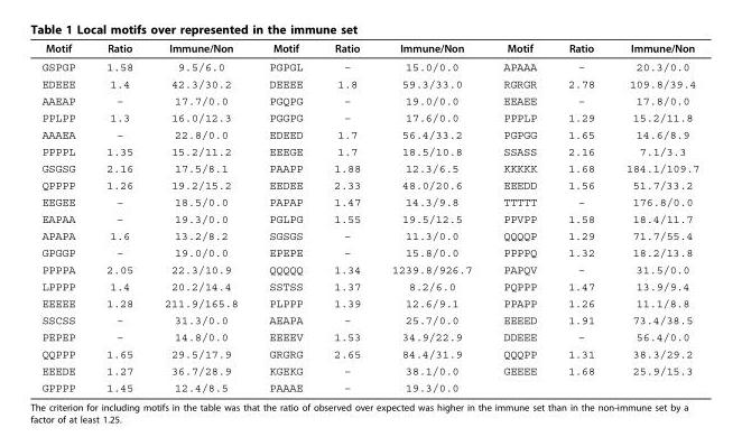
<table><thead><tr><td>Motif</td><td>Ratio</td><td>Immune/Non</td><td>Motif</td><td>Ratio</td><td>Immune/Non</td><td>Motif</td><td>Ratio</td><td>Immune/Non</td></tr></thead><tbody><tr><td>GSPGP</td><td>1.58</td><td>9.5/6.0</td><td>PGPGL</td><td>–</td><td>15.0/0.0</td><td>APAAA</td><td>–</td><td>20.3/0.0</td></tr><tr><td>EDEEE</td><td>1.4</td><td>42.3/30.2</td><td>DEEEE</td><td>1.8</td><td>59.3/33.0</td><td>RGRGR</td><td>2.78</td><td>109.8/39.4</td></tr><tr><td>AAEAP</td><td>–</td><td>17.7/0.0</td><td>PGQPG</td><td>–</td><td>19.0/0.0</td><td>EEAEE</td><td>–</td><td>17.8/0.0</td></tr><tr><td>PPLPP</td><td>1.3</td><td>16.0/12.3</td><td>PGGPG</td><td>–</td><td>17.6/0.0</td><td>PPPLP</td><td>1.29</td><td>15.2/11.8</td></tr><tr><td>AAAEA</td><td>–</td><td>22.8/0.0</td><td>EDEED</td><td>1.7</td><td>56.4/33.2</td><td>PGPGG</td><td>1.65</td><td>14.6/8.9</td></tr><tr><td>PPPPL</td><td>1.35</td><td>15.2/11.2</td><td>EEEGE</td><td>1.7</td><td>18.5/10.8</td><td>SSASS</td><td>2.16</td><td>7.1/3.3</td></tr><tr><td>GSGSG</td><td>2.16</td><td>17.5/8.1</td><td>PAAPP</td><td>1.88</td><td>12.3/6.5</td><td>KKKKK</td><td>1.68</td><td>184.1/109.7</td></tr><tr><td>QPPPP</td><td>1.26</td><td>19.2/15.2</td><td>EEDEE</td><td>2.33</td><td>48.0/20.6</td><td>EEEDD</td><td>1.56</td><td>51.7/33.2</td></tr><tr><td>EEGEE</td><td>–</td><td>18.5/0.0</td><td>PAPAP</td><td>1.47</td><td>14.3/9.8</td><td>TTTTT</td><td>–</td><td>176.8/0.0</td></tr><tr><td>EAPAA</td><td>–</td><td>19.3/0.0</td><td>PGLPG</td><td>1.55</td><td>19.5/12.5</td><td>PPVPP</td><td>1.58</td><td>18.4/11.7</td></tr><tr><td>APAPA</td><td>1.6</td><td>13.2/8.2</td><td>SGSGS</td><td>–</td><td>11.3/0.0</td><td>QQQQP</td><td>1.29</td><td>71.7/55.4</td></tr><tr><td>GPGGP</td><td>–</td><td>19.0/0.0</td><td>EPEPE</td><td>–</td><td>15.8/0.0</td><td>PPPPQ</td><td>1.32</td><td>18.2/13.8</td></tr><tr><td>PPPPA</td><td>2.05</td><td>22.3/10.9</td><td>QQQQQ</td><td>1.34</td><td>1239.8/926.7</td><td>PAPQV</td><td>–</td><td>31.5/0.0</td></tr><tr><td>LPPPP</td><td>1.4</td><td>20.2/14.4</td><td>SSTSS</td><td>1.37</td><td>8.2/6.0</td><td>PQPPP</td><td>1.47</td><td>13.9/9.4</td></tr><tr><td>EEEEE</td><td>1.28</td><td>211.9/165.8</td><td>PLPPP</td><td>1.39</td><td>12.6/9.1</td><td>PPAPP</td><td>1.26</td><td>11.1/8.8</td></tr><tr><td>SSCSS</td><td>–</td><td>31.3/0.0</td><td>AEAPA</td><td>–</td><td>25.7/0.0</td><td>EEEED</td><td>1.91</td><td>73.4/38.5</td></tr><tr><td>PEPEP</td><td>–</td><td>14.8/0.0</td><td>EEEEV</td><td>1.53</td><td>34.9/22.9</td><td>DDEEE</td><td>–</td><td>56.4/0.0</td></tr><tr><td>QQPPP</td><td>1.65</td><td>29.5/17.9</td><td>GRGRG</td><td>2.65</td><td>84.4/31.9</td><td>QQQPP</td><td>1.31</td><td>38.3/29.2</td></tr><tr><td>EEEDE</td><td>1.27</td><td>36.7/28.9</td><td>KGEKG</td><td>–</td><td>38.1/0.0</td><td>GEEEE</td><td>1.68</td><td>25.9/15.3</td></tr><tr><td>GPPPP</td><td>1.45</td><td>12.4/8.5</td><td>PAAAE</td><td>–</td><td>19.3/0.0</td><td></td><td></td><td></td></tr></tbody></table>